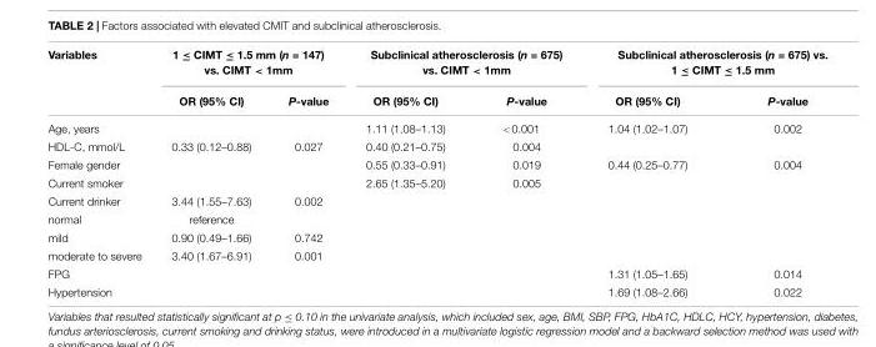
<table><thead><tr><td rowspan="2">Variables</td><td colspan="2">1 ≤ CIMT ≤ 1.5 mm (n = 147) vs. CIMT &lt; 1mm</td><td colspan="2">Subclinical atherosclerosis (n = 675) vs. CIMT &lt; 1mm</td><td colspan="2">Subclinical atherosclerosis (n = 675) vs. 1 ≤ CIMT ≤ 1.5 mm</td></tr><tr><td>OR (95% CI)</td><td>P-value</td><td>OR (95% CI)</td><td>P-value</td><td>OR (95% CI)</td><td>P-value</td></tr></thead><tbody><tr><td>Age, years</td><td></td><td></td><td>1.11 (1.08–1.13)</td><td>&lt;0.001</td><td>1.04 (1.02–1.07)</td><td>0.002</td></tr><tr><td>HDL-C, mmol/L</td><td>0.33 (0.12–0.88)</td><td>0.027</td><td>0.40 (0.21–0.75)</td><td>0.004</td><td></td><td></td></tr><tr><td>Female gender</td><td></td><td></td><td>0.55 (0.33–0.91)</td><td>0.019</td><td>0.44 (0.25–0.77)</td><td>0.004</td></tr><tr><td>Current smoker</td><td></td><td></td><td>2.65 (1.35–5.20)</td><td>0.005</td><td></td><td></td></tr><tr><td>Current drinker</td><td>3.44 (1.55–7.63)</td><td>0.002</td><td></td><td></td><td></td><td></td></tr><tr><td>normal</td><td>reference</td><td></td><td></td><td></td><td></td><td></td></tr><tr><td>mild</td><td>0.90 (0.49–1.66)</td><td>0.742</td><td></td><td></td><td></td><td></td></tr><tr><td>moderate to severe</td><td>3.40 (1.67–6.91)</td><td>0.001</td><td></td><td></td><td></td><td></td></tr><tr><td>FPG</td><td></td><td></td><td></td><td></td><td>1.31 (1.05–1.65)</td><td>0.014</td></tr><tr><td>Hypertension</td><td></td><td></td><td></td><td></td><td>1.69 (1.08–2.66)</td><td>0.022</td></tr></tbody></table>